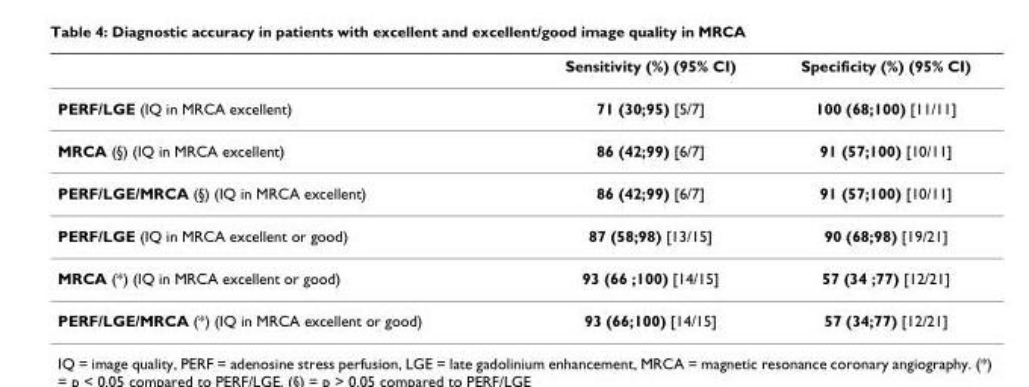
<table><thead><tr><td></td><td>Sensitivity (%) (95% CI)</td><td>Specificity (%) (95% CI)</td></tr></thead><tbody><tr><td>PERF/LGE (IQ in MRCA excellent)</td><td>71 (30;95) [5/7]</td><td>100 (68;100) [11/11]</td></tr><tr><td>MRCA (§) (IQ in MRCA excellent)</td><td>86 (42;99) [6/7]</td><td>91 (57;100) [10/11]</td></tr><tr><td>PERF/LGE/MRCA (§) (IQ in MRCA excellent)</td><td>86 (42;99) [6/7]</td><td>91 (57;100) [10/11]</td></tr><tr><td>PERF/LGE (IQ in MRCA excellent or good)</td><td>87 (58;98) [13/15]</td><td>90 (68;98) [19/21]</td></tr><tr><td>MRCA (*) (IQ in MRCA excellent or good)</td><td>93 (66 ;100) [14/15]</td><td>57 (34 ;77) [12/21]</td></tr><tr><td>PERF/LGE/MRCA (*) (IQ in MRCA excellent or good)</td><td>93 (66;100) [14/15]</td><td>57 (34;77) [12/21]</td></tr></tbody></table>